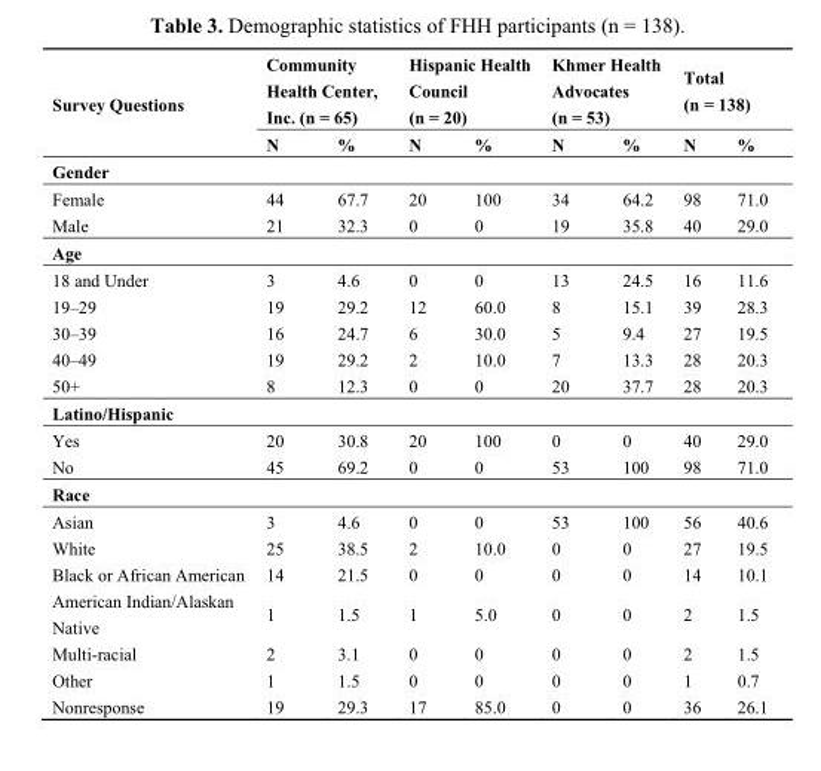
<table><thead><tr><td rowspan="2">Survey Questions</td><td colspan="2">Community Health Center, Inc. (n = 65)</td><td colspan="2">Hispanic Health Council (n = 20)</td><td colspan="2">Khmer Health Advocates (n = 53)</td><td colspan="2">Total (n = 138)</td></tr><tr><td>N</td><td>%</td><td>N</td><td>%</td><td>N</td><td>%</td><td>N</td><td>%</td></tr></thead><tbody><tr><td colspan="9">Gender</td></tr><tr><td>Female</td><td>44</td><td>67.7</td><td>20</td><td>100</td><td>34</td><td>64.2</td><td>98</td><td>71.0</td></tr><tr><td>Male</td><td>21</td><td>32.3</td><td>0</td><td>0</td><td>19</td><td>35.8</td><td>40</td><td>29.0</td></tr><tr><td colspan="9">Age</td></tr><tr><td>18 and Under</td><td>3</td><td>4.6</td><td>0</td><td>0</td><td>13</td><td>24.5</td><td>16</td><td>11.6</td></tr><tr><td>19–29</td><td>19</td><td>29.2</td><td>12</td><td>60.0</td><td>8</td><td>15.1</td><td>39</td><td>28.3</td></tr><tr><td>30–39</td><td>16</td><td>24.7</td><td>6</td><td>30.0</td><td>5</td><td>9.4</td><td>27</td><td>19.5</td></tr><tr><td>40–49</td><td>19</td><td>29.2</td><td>2</td><td>10.0</td><td>7</td><td>13.3</td><td>28</td><td>20.3</td></tr><tr><td>50+</td><td>8</td><td>12.3</td><td>0</td><td>0</td><td>20</td><td>37.7</td><td>28</td><td>20.3</td></tr><tr><td colspan="9">Latino/Hispanic</td></tr><tr><td>Yes</td><td>20</td><td>30.8</td><td>20</td><td>100</td><td>0</td><td>0</td><td>40</td><td>29.0</td></tr><tr><td>No</td><td>45</td><td>69.2</td><td>0</td><td>0</td><td>53</td><td>100</td><td>98</td><td>71.0</td></tr><tr><td colspan="9">Race</td></tr><tr><td>Asian</td><td>3</td><td>4.6</td><td>0</td><td>0</td><td>53</td><td>100</td><td>56</td><td>40.6</td></tr><tr><td>White</td><td>25</td><td>38.5</td><td>2</td><td>10.0</td><td>0</td><td>0</td><td>27</td><td>19.5</td></tr><tr><td>Black or African American</td><td>14</td><td>21.5</td><td>0</td><td>0</td><td>0</td><td>0</td><td>14</td><td>10.1</td></tr><tr><td>American Indian/Alaskan Native</td><td>1</td><td>1.5</td><td>1</td><td>5.0</td><td>0</td><td>0</td><td>2</td><td>1.5</td></tr><tr><td>Multi-racial</td><td>2</td><td>3.1</td><td>0</td><td>0</td><td>0</td><td>0</td><td>2</td><td>1.5</td></tr><tr><td>Other</td><td>1</td><td>1.5</td><td>0</td><td>0</td><td>0</td><td>0</td><td>1</td><td>0.7</td></tr><tr><td>Nonresponse</td><td>19</td><td>29.3</td><td>17</td><td>85.0</td><td>0</td><td>0</td><td>36</td><td>26.1</td></tr></tbody></table>